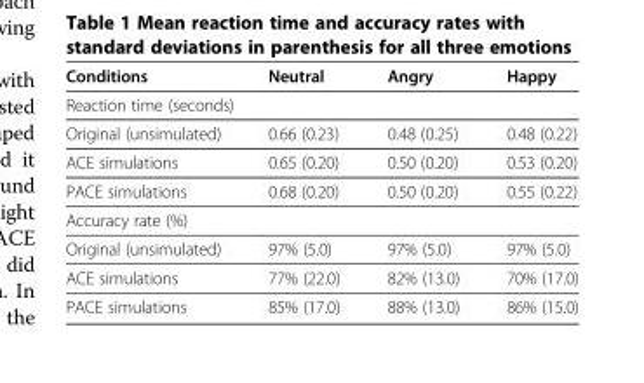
<table><thead><tr><td>Conditions</td><td>Neutral</td><td>Angry</td><td>Happy</td></tr></thead><tbody><tr><td colspan="4">Reaction time (seconds)</td></tr><tr><td>Original (unsimulated)</td><td>0.66 (0.23)</td><td>0.48 (0.25)</td><td>0.48 (0.22)</td></tr><tr><td>ACE simulations</td><td>0.65 (0.20)</td><td>0.50 (0.20)</td><td>0.53 (0.20)</td></tr><tr><td>PACE simulations</td><td>0.68 (0.20)</td><td>0.50 (0.20)</td><td>0.55 (0.22)</td></tr><tr><td colspan="4">Accuracy rate (%)</td></tr><tr><td>Original (unsimulated)</td><td>97% (5.0)</td><td>97% (5.0)</td><td>97% (5.0)</td></tr><tr><td>ACE simulations</td><td>77% (22.0)</td><td>82% (13.0)</td><td>70% (17.0)</td></tr><tr><td>PACE simulations</td><td>85% (17.0)</td><td>88% (13.0)</td><td>86% (15.0)</td></tr></tbody></table>